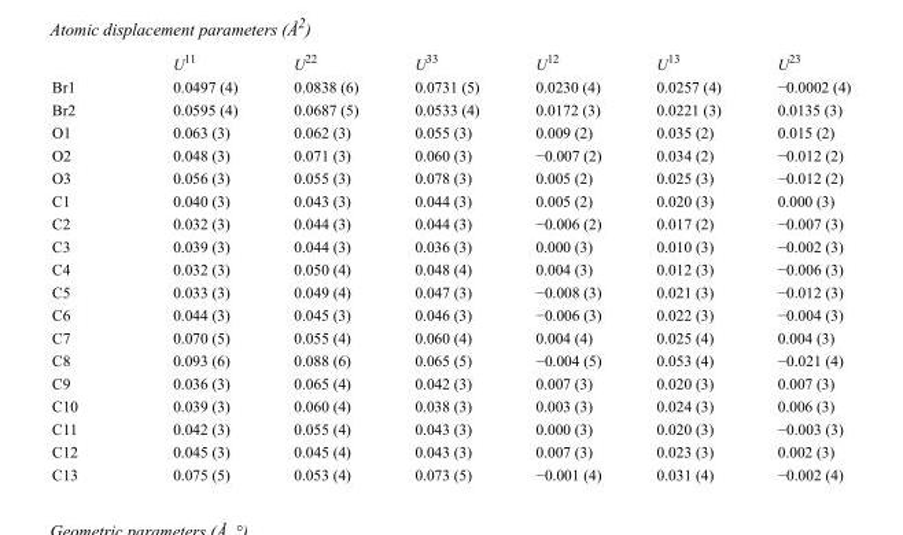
<table><thead><tr><td></td><td>U<sup>11</sup></td><td>U<sup>22</sup></td><td>U<sup>33</sup></td><td>U<sup>12</sup></td><td>U<sup>13</sup></td><td>U<sup>23</sup></td></tr></thead><tbody><tr><td>Br1</td><td>0.0497 (4)</td><td>0.0838 (6)</td><td>0.0731 (5)</td><td>0.0230 (4)</td><td>0.0257 (4)</td><td>−0.0002 (4)</td></tr><tr><td>Br2</td><td>0.0595 (4)</td><td>0.0687 (5)</td><td>0.0533 (4)</td><td>0.0172 (3)</td><td>0.0221 (3)</td><td>0.0135 (3)</td></tr><tr><td>O1</td><td>0.063 (3)</td><td>0.062 (3)</td><td>0.055 (3)</td><td>0.009 (2)</td><td>0.035 (2)</td><td>0.015 (2)</td></tr><tr><td>O2</td><td>0.048 (3)</td><td>0.071 (3)</td><td>0.060 (3)</td><td>−0.007 (2)</td><td>0.034 (2)</td><td>−0.012 (2)</td></tr><tr><td>O3</td><td>0.056 (3)</td><td>0.055 (3)</td><td>0.078 (3)</td><td>0.005 (2)</td><td>0.025 (3)</td><td>−0.012 (2)</td></tr><tr><td>C1</td><td>0.040 (3)</td><td>0.043 (3)</td><td>0.044 (3)</td><td>0.005 (2)</td><td>0.020 (3)</td><td>0.000 (3)</td></tr><tr><td>C2</td><td>0.032 (3)</td><td>0.044 (3)</td><td>0.044 (3)</td><td>−0.006 (2)</td><td>0.017 (2)</td><td>−0.007 (3)</td></tr><tr><td>C3</td><td>0.039 (3)</td><td>0.044 (3)</td><td>0.036 (3)</td><td>0.000 (3)</td><td>0.010 (3)</td><td>−0.002 (3)</td></tr><tr><td>C4</td><td>0.032 (3)</td><td>0.050 (4)</td><td>0.048 (4)</td><td>0.004 (3)</td><td>0.012 (3)</td><td>−0.006 (3)</td></tr><tr><td>C5</td><td>0.033 (3)</td><td>0.049 (4)</td><td>0.047 (3)</td><td>−0.008 (3)</td><td>0.021 (3)</td><td>−0.012 (3)</td></tr><tr><td>C6</td><td>0.044 (3)</td><td>0.045 (3)</td><td>0.046 (3)</td><td>−0.006 (3)</td><td>0.022 (3)</td><td>−0.004 (3)</td></tr><tr><td>C7</td><td>0.070 (5)</td><td>0.055 (4)</td><td>0.060 (4)</td><td>0.004 (4)</td><td>0.025 (4)</td><td>0.004 (3)</td></tr><tr><td>C8</td><td>0.093 (6)</td><td>0.088 (6)</td><td>0.065 (5)</td><td>−0.004 (5)</td><td>0.053 (4)</td><td>−0.021 (4)</td></tr><tr><td>C9</td><td>0.036 (3)</td><td>0.065 (4)</td><td>0.042 (3)</td><td>0.007 (3)</td><td>0.020 (3)</td><td>0.007 (3)</td></tr><tr><td>C10</td><td>0.039 (3)</td><td>0.060 (4)</td><td>0.038 (3)</td><td>0.003 (3)</td><td>0.024 (3)</td><td>0.006 (3)</td></tr><tr><td>C11</td><td>0.042 (3)</td><td>0.055 (4)</td><td>0.043 (3)</td><td>0.000 (3)</td><td>0.020 (3)</td><td>−0.003 (3)</td></tr><tr><td>C12</td><td>0.045 (3)</td><td>0.045 (4)</td><td>0.043 (3)</td><td>0.007 (3)</td><td>0.023 (3)</td><td>0.002 (3)</td></tr><tr><td>C13</td><td>0.075 (5)</td><td>0.053 (4)</td><td>0.073 (5)</td><td>−0.001 (4)</td><td>0.031 (4)</td><td>−0.002 (4)</td></tr></tbody></table>